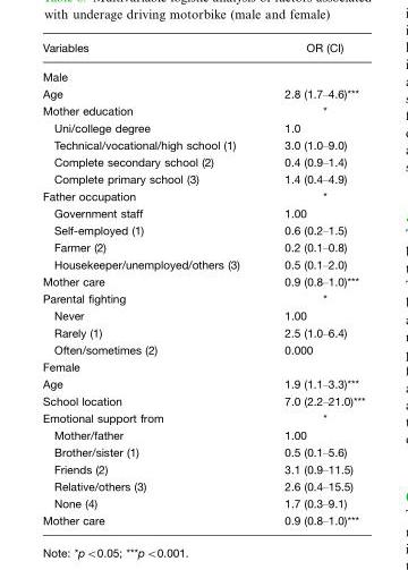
<table><thead><tr><td>Variables</td><td>OR (CI)</td></tr></thead><tbody><tr><td colspan="2">Male</td></tr><tr><td>Age</td><td>2.8 (1.7–4.6)***</td></tr><tr><td>Mother education</td><td>*</td></tr><tr><td>Uni/college degree</td><td>1.0</td></tr><tr><td>Technical/vocational/high school (1)</td><td>3.0 (1.0–9.0)</td></tr><tr><td>Complete secondary school (2)</td><td>0.4 (0.9–1.4)</td></tr><tr><td>Complete primary school (3)</td><td>1.4 (0.4–4.9)</td></tr><tr><td>Father occupation</td><td>*</td></tr><tr><td>Government staff</td><td>1.00</td></tr><tr><td>Self-employed (1)</td><td>0.6 (0.2–1.5)</td></tr><tr><td>Farmer (2)</td><td>0.2 (0.1–0.8)</td></tr><tr><td>Housekeeper/unemployed/others (3)</td><td>0.5 (0.1–2.0)</td></tr><tr><td>Mother care</td><td>0.9 (0.8–1.0)***</td></tr><tr><td>Parental fighting</td><td>*</td></tr><tr><td>Never</td><td>1.00</td></tr><tr><td>Rarely (1)</td><td>2.5 (1.0–6.4)</td></tr><tr><td>Often/sometimes (2)</td><td>0.000</td></tr><tr><td colspan="2">Female</td></tr><tr><td>Age</td><td>1.9 (1.1–3.3)***</td></tr><tr><td>School location</td><td>7.0 (2.2–21.0)***</td></tr><tr><td>Emotional support from</td><td>*</td></tr><tr><td>Mother/father</td><td>1.00</td></tr><tr><td>Brother/sister (1)</td><td>0.5 (0.1–5.6)</td></tr><tr><td>Friends (2)</td><td>3.1 (0.9–11.5)</td></tr><tr><td>Relative/others (3)</td><td>2.6 (0.4–15.5)</td></tr><tr><td>None (4)</td><td>1.7 (0.3–9.1)</td></tr><tr><td>Mother care</td><td>0.9 (0.8–1.0)***</td></tr></tbody></table>